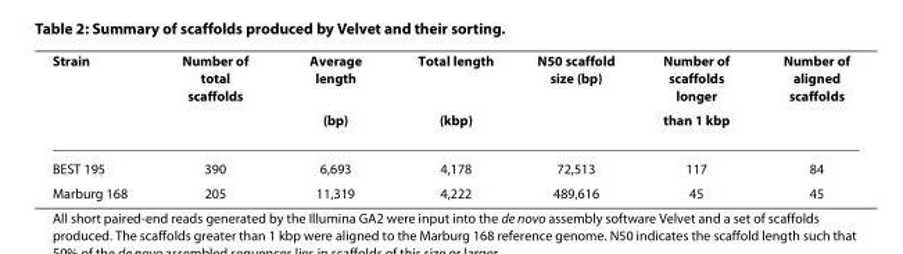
<table><thead><tr><td rowspan="2">Strain</td><td rowspan="2">Number of total scaffolds</td><td rowspan="2">Average length (bp)</td><td rowspan="2">Total length (kbp)</td><td rowspan="2">N50 scaffold size (bp)</td><td rowspan="2">Number of scaffolds longer than 1 kbp</td><td rowspan="2">Number of aligned scaffolds</td></tr><tr></tr></thead><tbody><tr><td>BEST 195</td><td>390</td><td>6,693</td><td>4,178</td><td>72,513</td><td>117</td><td>84</td></tr><tr><td>Marburg 168</td><td>205</td><td>11,319</td><td>4,222</td><td>489,616</td><td>45</td><td>45</td></tr></tbody></table>